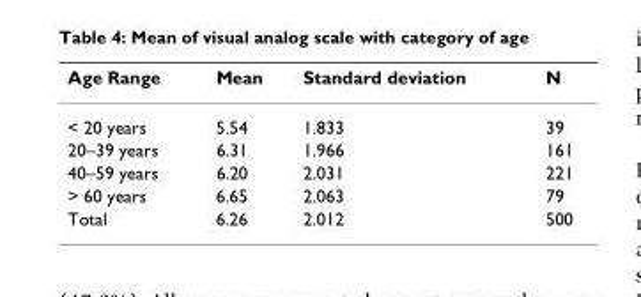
<table><thead><tr><td>Age Range</td><td>Mean</td><td>Standard deviation</td><td>N</td></tr></thead><tbody><tr><td>&lt; 20 years</td><td>5.54</td><td>1.833</td><td>39</td></tr><tr><td>20–39 years</td><td>6.31</td><td>1.966</td><td>161</td></tr><tr><td>40–59 years</td><td>6.20</td><td>2.031</td><td>221</td></tr><tr><td>&gt; 60 years</td><td>6.65</td><td>2.063</td><td>79</td></tr><tr><td>Total</td><td>6.26</td><td>2.012</td><td>500</td></tr></tbody></table>